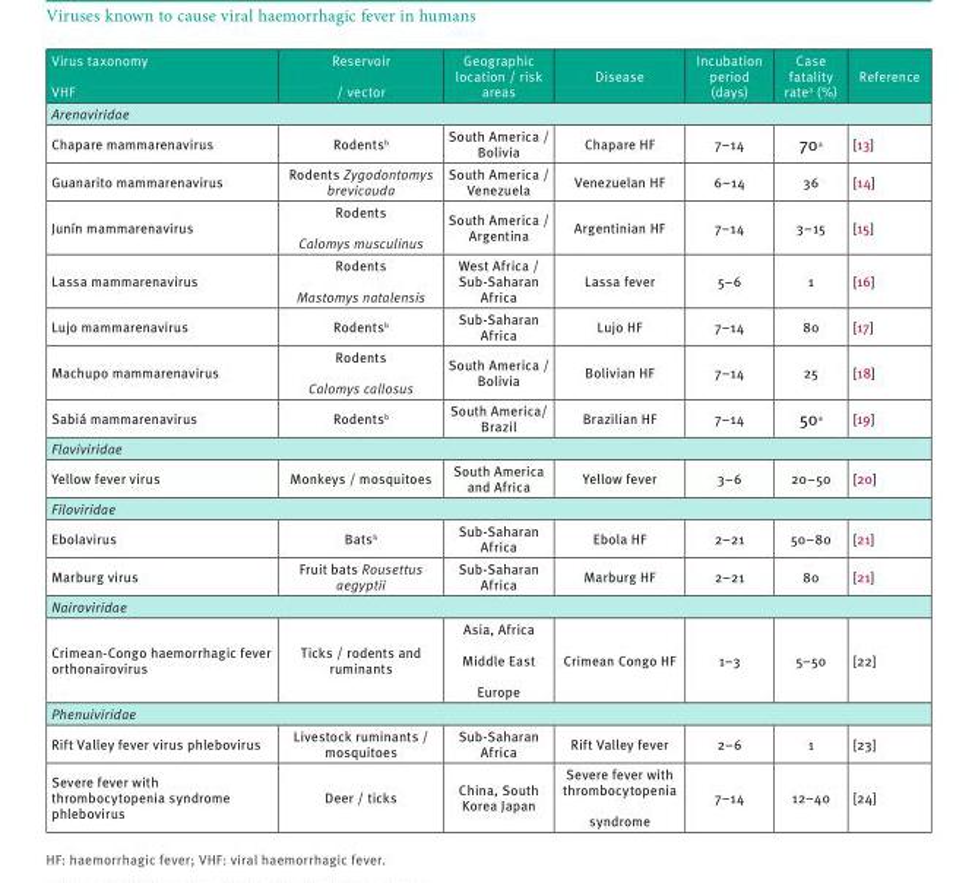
<table><thead><tr><td>Virus taxonomy VHF</td><td>Reservoir / vector</td><td>Geographic location / risk areas</td><td>Disease</td><td>Incubation period (days)</td><td>Case fatality rate<sup>a</sup> (%)</td><td>Reference</td></tr></thead><tbody><tr><td colspan="7">Arenaviridae</td></tr><tr><td>Chapare mammarenavirus</td><td>Rodents<sup>b</sup></td><td>South America / Bolivia</td><td>Chapare HF</td><td>7–14</td><td>70<sup>a</sup></td><td>[13]</td></tr><tr><td>Guanarito mammarenavirus</td><td>Rodents Zygodontomys brevicauda</td><td>South America / Venezuela</td><td>Venezuelan HF</td><td>6–14</td><td>36</td><td>[14]</td></tr><tr><td>Junín mammarenavirus</td><td>Rodents Calomys musculinus</td><td>South America / Argentina</td><td>Argentinian HF</td><td>7–14</td><td>3–15</td><td>[15]</td></tr><tr><td>Lassa mammarenavirus</td><td>Rodents Mastomys natalensis</td><td>West Africa / Sub-Saharan Africa</td><td>Lassa fever</td><td>5–6</td><td>1</td><td>[16]</td></tr><tr><td>Lujo mammarenavirus</td><td>Rodents<sup>b</sup></td><td>Sub-Saharan Africa</td><td>Lujo HF</td><td>7–14</td><td>80</td><td>[17]</td></tr><tr><td>Machupo mammarenavirus</td><td>Rodents Calomys callosus</td><td>South America / Bolivia</td><td>Bolivian HF</td><td>7–14</td><td>25</td><td>[18]</td></tr><tr><td>Sabiá mammarenavirus</td><td>Rodents<sup>b</sup></td><td>South America/ Brazil</td><td>Brazilian HF</td><td>7–14</td><td>50<sup>a</sup></td><td>[19]</td></tr><tr><td colspan="7">Flaviviridae</td></tr><tr><td>Yellow fever virus</td><td>Monkeys / mosquitoes</td><td>South America and Africa</td><td>Yellow fever</td><td>3–6</td><td>20–50</td><td>[20]</td></tr><tr><td colspan="7">Filoviridae</td></tr><tr><td>Ebolavirus</td><td>Bats<sup>b</sup></td><td>Sub-Saharan Africa</td><td>Ebola HF</td><td>2–21</td><td>50–80</td><td>[21]</td></tr><tr><td>Marburg virus</td><td>Fruit bats Rousettus aegyptii</td><td>Sub-Saharan Africa</td><td>Marburg HF</td><td>2–21</td><td>80</td><td>[21]</td></tr><tr><td colspan="7">Nairoviridae</td></tr><tr><td>Crimean-Congo haemorrhagic fever orthonairovirus</td><td>Ticks / rodents and ruminants</td><td>Asia, Africa Middle East Europe</td><td>Crimean Congo HF</td><td>1–3</td><td>5–50</td><td>[22]</td></tr><tr><td colspan="7">Phenuiviridae</td></tr><tr><td>Rift Valley fever virus phlebovirus</td><td>Livestock ruminants / mosquitoes</td><td>Sub-Saharan Africa</td><td>Rift Valley fever</td><td>2–6</td><td>1</td><td>[23]</td></tr><tr><td>Severe fever with thrombocytopenia syndrome phlebovirus</td><td>Deer / ticks</td><td>China, South Korea Japan</td><td>Severe fever with thrombocytopenia syndrome</td><td>7–14</td><td>12–40</td><td>[24]</td></tr></tbody></table>